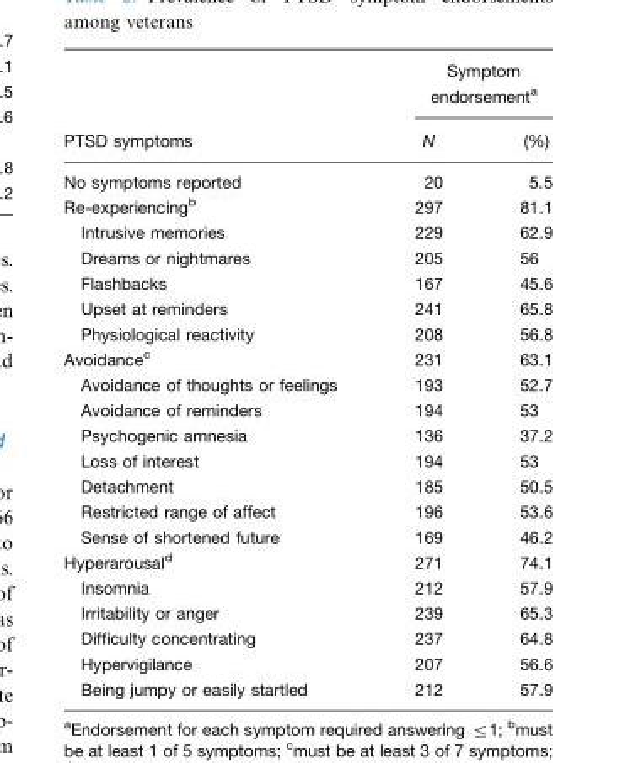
<table><thead><tr><td rowspan="2">PTSD symptoms</td><td colspan="2">Symptom endorsement<sup>a</sup></td></tr><tr><td>N</td><td>(%)</td></tr></thead><tbody><tr><td>No symptoms reported</td><td>20</td><td>5.5</td></tr><tr><td>Re-experiencing<sup>b</sup></td><td>297</td><td>81.1</td></tr><tr><td>Intrusive memories</td><td>229</td><td>62.9</td></tr><tr><td>Dreams or nightmares</td><td>205</td><td>56</td></tr><tr><td>Flashbacks</td><td>167</td><td>45.6</td></tr><tr><td>Upset at reminders</td><td>241</td><td>65.8</td></tr><tr><td>Physiological reactivity</td><td>208</td><td>56.8</td></tr><tr><td>Avoidance<sup>c</sup></td><td>231</td><td>63.1</td></tr><tr><td>Avoidance of thoughts or feelings</td><td>193</td><td>52.7</td></tr><tr><td>Avoidance of reminders</td><td>194</td><td>53</td></tr><tr><td>Psychogenic amnesia</td><td>136</td><td>37.2</td></tr><tr><td>Loss of interest</td><td>194</td><td>53</td></tr><tr><td>Detachment</td><td>185</td><td>50.5</td></tr><tr><td>Restricted range of affect</td><td>196</td><td>53.6</td></tr><tr><td>Sense of shortened future</td><td>169</td><td>46.2</td></tr><tr><td>Hyperarousal<sup>d</sup></td><td>271</td><td>74.1</td></tr><tr><td>Insomnia</td><td>212</td><td>57.9</td></tr><tr><td>Irritability or anger</td><td>239</td><td>65.3</td></tr><tr><td>Difficulty concentrating</td><td>237</td><td>64.8</td></tr><tr><td>Hypervigilance</td><td>207</td><td>56.6</td></tr><tr><td>Being jumpy or easily startled</td><td>212</td><td>57.9</td></tr></tbody></table>